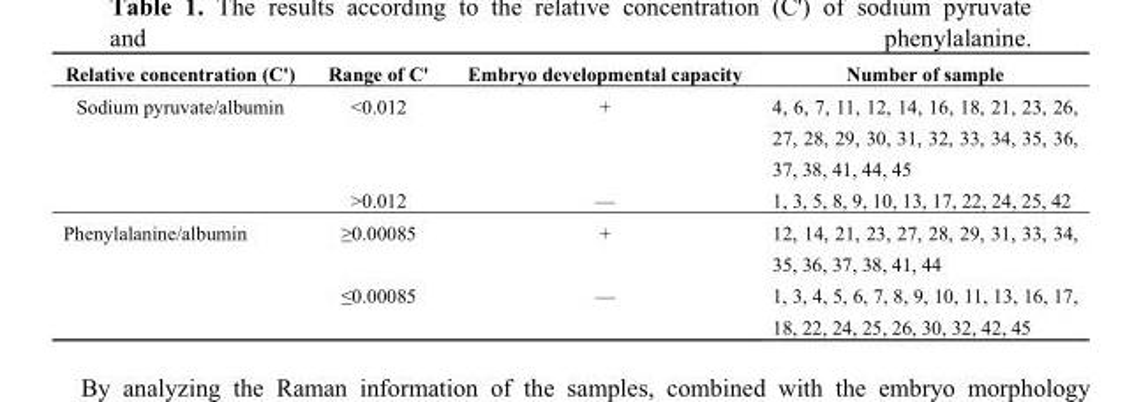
<table><thead><tr><td>Relative concentration (C&#x27;)</td><td>Range of C&#x27;</td><td>Embryo developmental capacity</td><td>Number of sample</td></tr></thead><tbody><tr><td rowspan="2">Sodium pyruvate/albumin</td><td>&lt;0.012</td><td>+</td><td>4, 6, 7, 11, 12, 14, 16, 18, 21, 23, 26, 27, 28, 29, 30, 31, 32, 33, 34, 35, 36, 37, 38, 41, 44, 45</td></tr><tr><td>&gt;0.012</td><td>—</td><td>1, 3, 5, 8, 9, 10, 13, 17, 22, 24, 25, 42</td></tr><tr><td rowspan="2">Phenylalanine/albumin</td><td>≥0.00085</td><td>+</td><td>12, 14, 21, 23, 27, 28, 29, 31, 33, 34, 35, 36, 37, 38, 41, 44</td></tr><tr><td>≤0.00085</td><td>—</td><td>1, 3, 4, 5, 6, 7, 8, 9, 10, 11, 13, 16, 17, 18, 22, 24, 25, 26, 30, 32, 42, 45</td></tr></tbody></table>